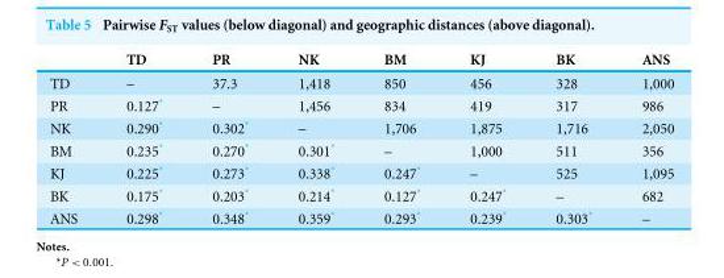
<table><thead><tr><td></td><td>TD</td><td>PR</td><td>NK</td><td>BM</td><td>KJ</td><td>BK</td><td>ANS</td></tr></thead><tbody><tr><td>TD</td><td>–</td><td>37.3</td><td>1,418</td><td>850</td><td>456</td><td>328</td><td>1,000</td></tr><tr><td>PR</td><td>0.127*</td><td>–</td><td>1,456</td><td>834</td><td>419</td><td>317</td><td>986</td></tr><tr><td>NK</td><td>0.290*</td><td>0.302*</td><td>–</td><td>1,706</td><td>1,875</td><td>1,716</td><td>2,050</td></tr><tr><td>BM</td><td>0.235*</td><td>0.270*</td><td>0.301*</td><td>–</td><td>1,000</td><td>511</td><td>356</td></tr><tr><td>KJ</td><td>0.225*</td><td>0.273*</td><td>0.338*</td><td>0.247*</td><td>–</td><td>525</td><td>1,095</td></tr><tr><td>BK</td><td>0.175*</td><td>0.203*</td><td>0.214*</td><td>0.127*</td><td>0.247*</td><td>–</td><td>682</td></tr><tr><td>ANS</td><td>0.298*</td><td>0.348*</td><td>0.359*</td><td>0.293*</td><td>0.239*</td><td>0.303*</td><td>–</td></tr></tbody></table>